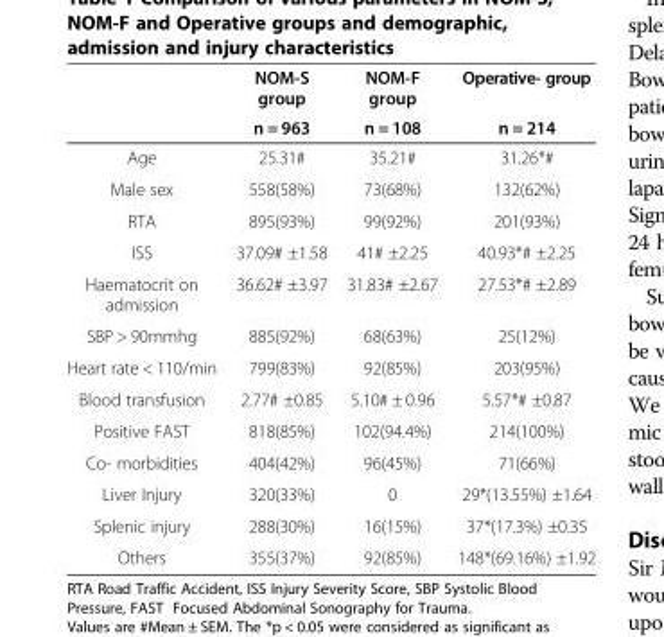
<table><thead><tr><td rowspan="2"></td><td rowspan="2">NOM-S group n = 963</td><td rowspan="2">NOM-F group n = 108</td><td rowspan="2">Operative- group n = 214</td></tr><tr></tr></thead><tbody><tr><td>Age</td><td>25.31#</td><td>35.21#</td><td>31.26*#</td></tr><tr><td>Male sex</td><td>558(58%)</td><td>73(68%)</td><td>132(62%)</td></tr><tr><td>RTA</td><td>895(93%)</td><td>99(92%)</td><td>201(93%)</td></tr><tr><td>ISS</td><td>37.09# ±1.58</td><td>41# ±2.25</td><td>40.93*# ±2.25</td></tr><tr><td>Haematocrit on admission</td><td>36.62# ±3.97</td><td>31.83# ±2.67</td><td>27.53*# ±2.89</td></tr><tr><td>SBP &gt; 90mmhg</td><td>885(92%)</td><td>68(63%)</td><td>25(12%)</td></tr><tr><td>Heart rate &lt; 110/min</td><td>799(83%)</td><td>92(85%)</td><td>203(95%)</td></tr><tr><td>Blood transfusion</td><td>2.77# ±0.85</td><td>5.10# ± 0.96</td><td>5.57*# ±0.87</td></tr><tr><td>Positive FAST</td><td>818(85%)</td><td>102(94.4%)</td><td>214(100%)</td></tr><tr><td>Co- morbidities</td><td>404(42%)</td><td>96(45%)</td><td>71(66%)</td></tr><tr><td>Liver Injury</td><td>320(33%)</td><td>0</td><td>29*(13.55%) ±1.64</td></tr><tr><td>Splenic injury</td><td>288(30%)</td><td>16(15%)</td><td>37*(17.3%) ±0.35</td></tr><tr><td>Others</td><td>355(37%)</td><td>92(85%)</td><td>148*(69.16%) ±1.92</td></tr></tbody></table>